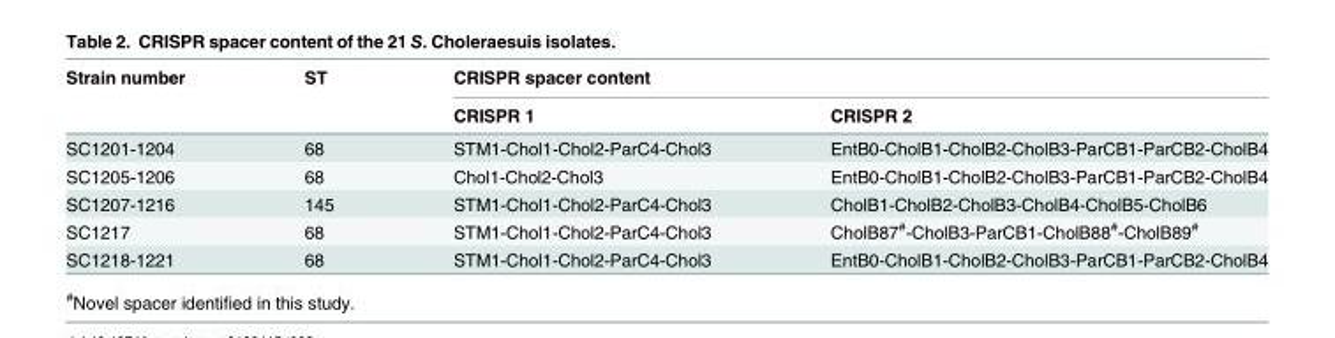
<table><thead><tr><td rowspan="2">Strain number</td><td rowspan="2">ST</td><td colspan="2">CRISPR spacer content</td></tr><tr><td>CRISPR 1</td><td>CRISPR 2</td></tr></thead><tbody><tr><td>SC1201-1204</td><td>68</td><td>STM1-Chol1-Chol2-ParC4-Chol3</td><td>EntB0-CholB1-CholB2-CholB3-ParCB1-ParCB2-CholB4</td></tr><tr><td>SC1205-1206</td><td>68</td><td>Chol1-Chol2-Chol3</td><td>EntB0-CholB1-CholB2-CholB3-ParCB1-ParCB2-CholB4</td></tr><tr><td>SC1207-1216</td><td>145</td><td>STM1-Chol1-Chol2-ParC4-Chol3</td><td>CholB1-CholB2-CholB3-CholB4-CholB5-CholB6</td></tr><tr><td>SC1217</td><td>68</td><td>STM1-Chol1-Chol2-ParC4-Chol3</td><td>CholB87<sup>#</sup>-CholB3-ParCB1-CholB88<sup>#</sup>-CholB89<sup>#</sup></td></tr><tr><td>SC1218-1221</td><td>68</td><td>STM1-Chol1-Chol2-ParC4-Chol3</td><td>EntB0-CholB1-CholB2-CholB3-ParCB1-ParCB2-CholB4</td></tr></tbody></table>